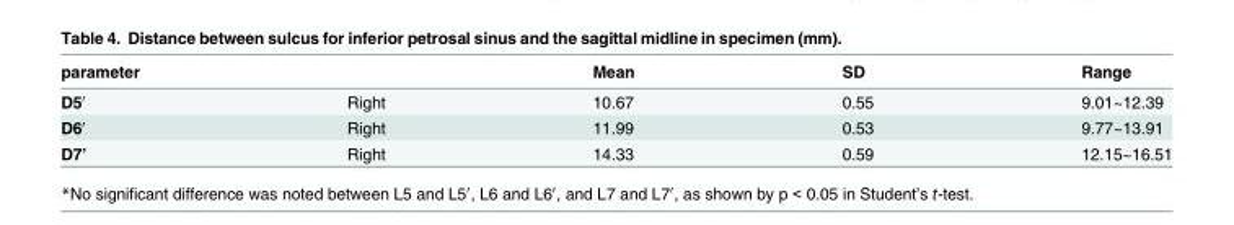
<table><thead><tr><td>parameter</td><td></td><td>Mean</td><td>SD</td><td>Range</td></tr></thead><tbody><tr><td>D5′</td><td>Right</td><td>10.67</td><td>0.55</td><td>9.01~12.39</td></tr><tr><td>D6′</td><td>Right</td><td>11.99</td><td>0.53</td><td>9.77~13.91</td></tr><tr><td>D7’</td><td>Right</td><td>14.33</td><td>0.59</td><td>12.15~16.51</td></tr></tbody></table>